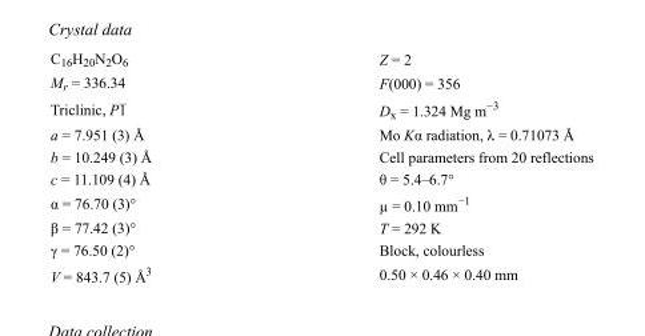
<table><tbody><tr><td>C<sub>16</sub>H<sub>20</sub>N<sub>2</sub>O<sub>6</sub></td><td>Z = 2</td></tr><tr><td>M<sub>r</sub> = 336.34</td><td>F(000) = 356</td></tr><tr><td>Triclinic, P1</td><td>D<sub>x</sub> = 1.324 Mg m<sup>−3</sup></td></tr><tr><td>a = 7.951 (3) Å</td><td>Mo Kα radiation, λ = 0.71073 Å</td></tr><tr><td>b = 10.249 (3) Å</td><td>Cell parameters from 20 reflections</td></tr><tr><td>c = 11.109 (4) Å</td><td>θ = 5.4–6.7°</td></tr><tr><td>α = 76.70 (3)°</td><td>µ = 0.10 mm<sup>−1</sup></td></tr><tr><td>β = 77.42 (3)°</td><td>T = 292 K</td></tr><tr><td>γ = 76.50 (2)°</td><td>Block, colourless</td></tr><tr><td>V = 843.7 (5) Å<sup>3</sup></td><td>0.50 × 0.46 × 0.40 mm</td></tr></tbody></table>